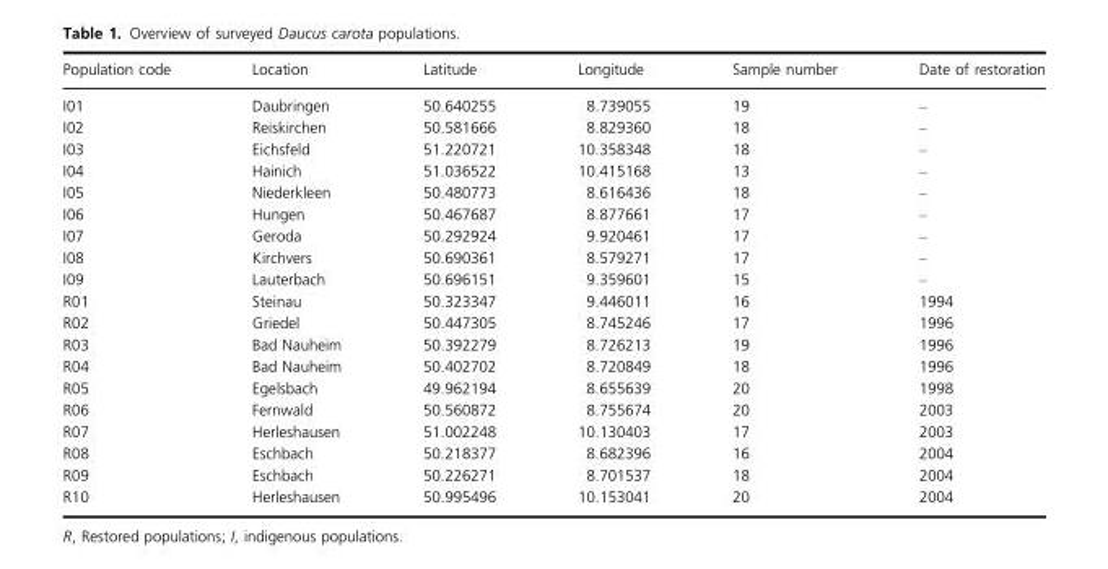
<table><thead><tr><td>Population code</td><td>Location</td><td>Latitude</td><td>Longitude</td><td>Sample number</td><td>Date of restoration</td></tr></thead><tbody><tr><td>I01</td><td>Daubringen</td><td>50.640255</td><td>8.739055</td><td>19</td><td>–</td></tr><tr><td>I02</td><td>Reiskirchen</td><td>50.581666</td><td>8.829360</td><td>18</td><td>–</td></tr><tr><td>I03</td><td>Eichsfeld</td><td>51.220721</td><td>10.358348</td><td>18</td><td>–</td></tr><tr><td>I04</td><td>Hainich</td><td>51.036522</td><td>10.415168</td><td>13</td><td>–</td></tr><tr><td>I05</td><td>Niederkleen</td><td>50.480773</td><td>8.616436</td><td>18</td><td>–</td></tr><tr><td>I06</td><td>Hungen</td><td>50.467687</td><td>8.877661</td><td>17</td><td>–</td></tr><tr><td>I07</td><td>Geroda</td><td>50.292924</td><td>9.920461</td><td>17</td><td>–</td></tr><tr><td>I08</td><td>Kirchvers</td><td>50.690361</td><td>8.579271</td><td>17</td><td>–</td></tr><tr><td>I09</td><td>Lauterbach</td><td>50.696151</td><td>9.359601</td><td>15</td><td>–</td></tr><tr><td>R01</td><td>Steinau</td><td>50.323347</td><td>9.446011</td><td>16</td><td>1994</td></tr><tr><td>R02</td><td>Griedel</td><td>50.447305</td><td>8.745246</td><td>17</td><td>1996</td></tr><tr><td>R03</td><td>Bad Nauheim</td><td>50.392279</td><td>8.726213</td><td>19</td><td>1996</td></tr><tr><td>R04</td><td>Bad Nauheim</td><td>50.402702</td><td>8.720849</td><td>18</td><td>1996</td></tr><tr><td>R05</td><td>Egelsbach</td><td>49.962194</td><td>8.655639</td><td>20</td><td>1998</td></tr><tr><td>R06</td><td>Fernwald</td><td>50.560872</td><td>8.755674</td><td>20</td><td>2003</td></tr><tr><td>R07</td><td>Herleshausen</td><td>51.002248</td><td>10.130403</td><td>17</td><td>2003</td></tr><tr><td>R08</td><td>Eschbach</td><td>50.218377</td><td>8.682396</td><td>16</td><td>2004</td></tr><tr><td>R09</td><td>Eschbach</td><td>50.226271</td><td>8.701537</td><td>18</td><td>2004</td></tr><tr><td>R10</td><td>Herleshausen</td><td>50.995496</td><td>10.153041</td><td>20</td><td>2004</td></tr></tbody></table>